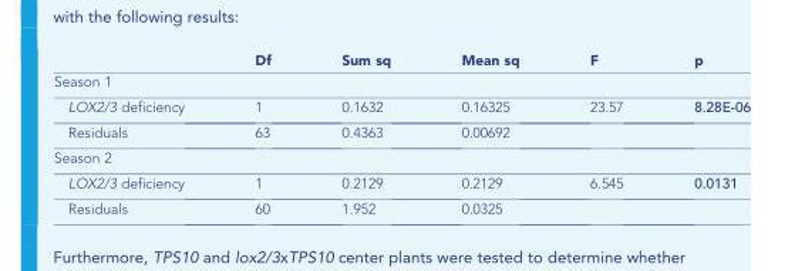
<table><thead><tr><td></td><td>Df</td><td>Sum sq</td><td>Mean sq</td><td>F</td><td>p</td></tr></thead><tbody><tr><td colspan="6">Season 1</td></tr><tr><td>LOX2/3 deficiency</td><td>1</td><td>0.1632</td><td>0.16325</td><td>23.57</td><td>8.28E-06</td></tr><tr><td>Residuals</td><td>63</td><td>0.4363</td><td>0.00692</td><td></td><td></td></tr><tr><td colspan="6">Season 2</td></tr><tr><td>LOX2/3 deficiency</td><td>1</td><td>0.2129</td><td>0.2129</td><td>6.545</td><td>0.0131</td></tr><tr><td>Residuals</td><td>60</td><td>1.952</td><td>0.0325</td><td></td><td></td></tr></tbody></table>